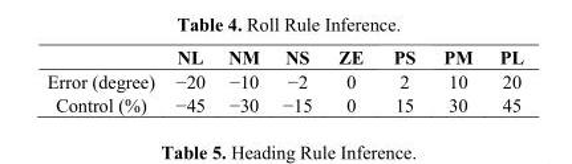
<table><thead><tr><td></td><td>NL</td><td>NM</td><td>NS</td><td>ZE</td><td>PS</td><td>PM</td><td>PL</td></tr></thead><tbody><tr><td>Error (degree)</td><td>−20</td><td>−10</td><td>−2</td><td>0</td><td>2</td><td>10</td><td>20</td></tr><tr><td>Control (%)</td><td>−45</td><td>−30</td><td>−15</td><td>0</td><td>15</td><td>30</td><td>45</td></tr></tbody></table>